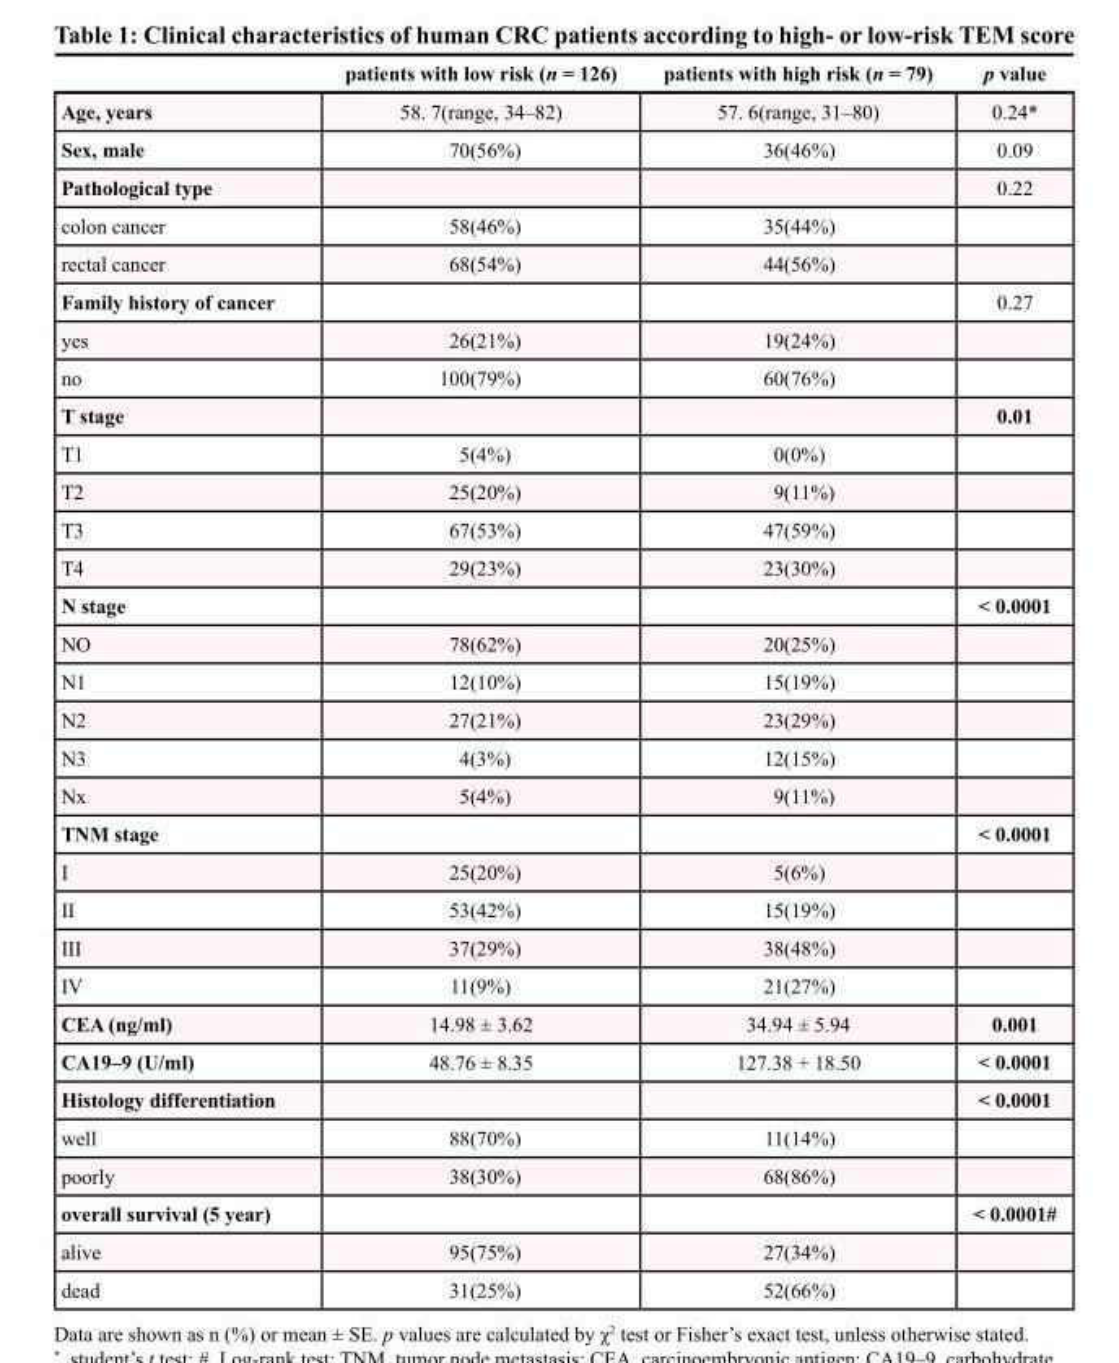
<table><thead><tr><td></td><td>patients with low risk (n = 126)</td><td>patients with high risk (n = 79)</td><td>p value</td></tr></thead><tbody><tr><td>Age, years</td><td>58. 7(range, 34–82)</td><td>57. 6(range, 31–80)</td><td>0.24*</td></tr><tr><td>Sex, male</td><td>70(56%)</td><td>36(46%)</td><td>0.09</td></tr><tr><td>Pathological type</td><td></td><td></td><td>0.22</td></tr><tr><td>colon cancer</td><td>58(46%)</td><td>35(44%)</td><td></td></tr><tr><td>rectal cancer</td><td>68(54%)</td><td>44(56%)</td><td></td></tr><tr><td>Family history of cancer</td><td></td><td></td><td>0.27</td></tr><tr><td>yes</td><td>26(21%)</td><td>19(24%)</td><td></td></tr><tr><td>no</td><td>100(79%)</td><td>60(76%)</td><td></td></tr><tr><td>T stage</td><td></td><td></td><td>0.01</td></tr><tr><td>T1</td><td>5(4%)</td><td>0(0%)</td><td></td></tr><tr><td>T2</td><td>25(20%)</td><td>9(11%)</td><td></td></tr><tr><td>T3</td><td>67(53%)</td><td>47(59%)</td><td></td></tr><tr><td>T4</td><td>29(23%)</td><td>23(30%)</td><td></td></tr><tr><td>N stage</td><td></td><td></td><td>&lt; 0.0001</td></tr><tr><td>NO</td><td>78(62%)</td><td>20(25%)</td><td></td></tr><tr><td>N1</td><td>12(10%)</td><td>15(19%)</td><td></td></tr><tr><td>N2</td><td>27(21%)</td><td>23(29%)</td><td></td></tr><tr><td>N3</td><td>4(3%)</td><td>12(15%)</td><td></td></tr><tr><td>Nx</td><td>5(4%)</td><td>9(11%)</td><td></td></tr><tr><td>TNM stage</td><td></td><td></td><td>&lt; 0.0001</td></tr><tr><td>I</td><td>25(20%)</td><td>5(6%)</td><td></td></tr><tr><td>II</td><td>53(42%)</td><td>15(19%)</td><td></td></tr><tr><td>III</td><td>37(29%)</td><td>38(48%)</td><td></td></tr><tr><td>IV</td><td>11(9%)</td><td>21(27%)</td><td></td></tr><tr><td>CEA (ng/ml)</td><td>14.98 ± 3.62</td><td>34.94 ± 5.94</td><td>0.001</td></tr><tr><td>CA19–9 (U/ml)</td><td>48.76 ± 8.35</td><td>127.38 + 18.50</td><td>&lt; 0.0001</td></tr><tr><td>Histology differentiation</td><td></td><td></td><td>&lt; 0.0001</td></tr><tr><td>well</td><td>88(70%)</td><td>11(14%)</td><td></td></tr><tr><td>poorly</td><td>38(30%)</td><td>68(86%)</td><td></td></tr><tr><td>overall survival (5 year)</td><td></td><td></td><td>&lt; 0.0001#</td></tr><tr><td>alive</td><td>95(75%)</td><td>27(34%)</td><td></td></tr><tr><td>dead</td><td>31(25%)</td><td>52(66%)</td><td></td></tr></tbody></table>